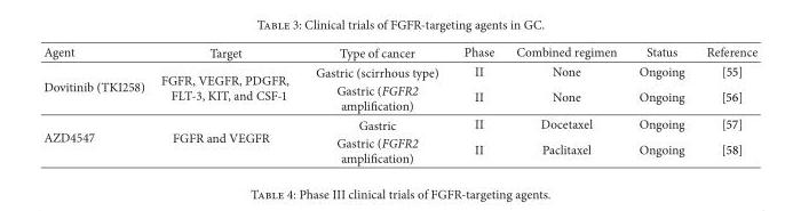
<table><thead><tr><td>Agent</td><td>Target</td><td>Type of cancer</td><td>Phase</td><td>Combined regimen</td><td>Status</td><td>Reference</td></tr></thead><tbody><tr><td rowspan="2">Dovitinib (TKI258)</td><td rowspan="2">FGFR, VEGFR, PDGFR, FLT-3, KIT, and CSF-1</td><td>Gastric (scirrhous type)</td><td>II</td><td>None</td><td>Ongoing</td><td>[55]</td></tr><tr><td>Gastric (FGFR2 amplification)</td><td>II</td><td>None</td><td>Ongoing</td><td>[56]</td></tr><tr><td rowspan="2">AZD4547</td><td rowspan="2">FGFR and VEGFR</td><td>Gastric</td><td>II</td><td>Docetaxel</td><td>Ongoing</td><td>[57]</td></tr><tr><td>Gastric (FGFR2 amplification)</td><td>II</td><td>Paclitaxel</td><td>Ongoing</td><td>[58]</td></tr></tbody></table>